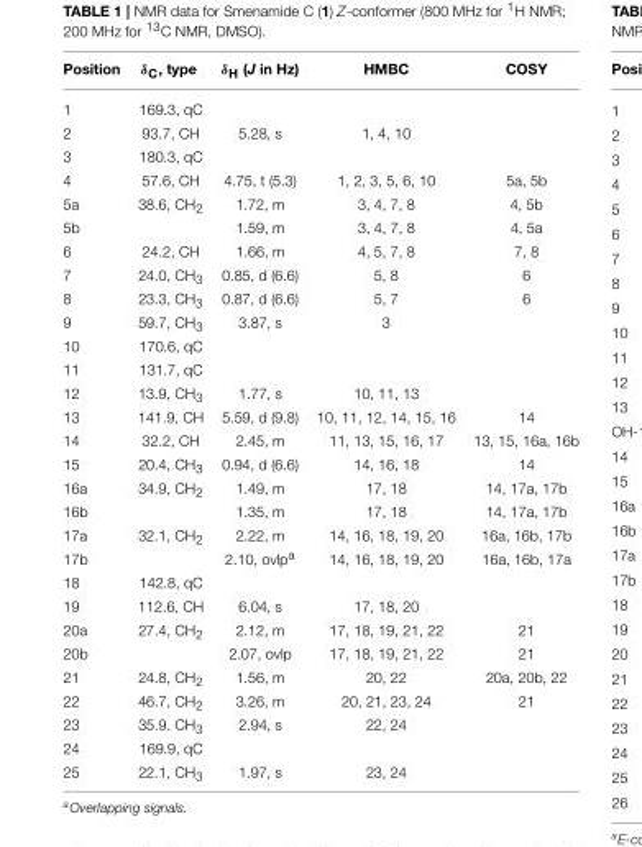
<table><thead><tr><td>Position</td><td>δ<sub>C</sub>, type</td><td>δ<sub>H</sub> (J in Hz)</td><td>HMBC</td><td>COSY</td></tr></thead><tbody><tr><td>1</td><td>169.3, qC</td><td></td><td></td><td></td></tr><tr><td>2</td><td>93.7, CH</td><td>5.28, s</td><td>1, 4, 10</td><td></td></tr><tr><td>3</td><td>180.3, qC</td><td></td><td></td><td></td></tr><tr><td>4</td><td>57.6, CH</td><td>4.75, t (5.3)</td><td>1, 2, 3, 5, 6, 10</td><td>5a, 5b</td></tr><tr><td>5a</td><td>38.6, CH<sub>2</sub></td><td>1.72, m</td><td>3, 4, 7, 8</td><td>4, 5b</td></tr><tr><td>5b</td><td></td><td>1.59, m</td><td>3, 4, 7, 8</td><td>4, 5a</td></tr><tr><td>6</td><td>24.2, CH</td><td>1.66, m</td><td>4, 5, 7, 8</td><td>7, 8</td></tr><tr><td>7</td><td>24.0, CH<sub>3</sub></td><td>0.85, d (6.6)</td><td>5, 8</td><td>6</td></tr><tr><td>8</td><td>23.3, CH<sub>3</sub></td><td>0.87, d (6.6)</td><td>5, 7</td><td>6</td></tr><tr><td>9</td><td>59.7, CH<sub>3</sub></td><td>3.87, s</td><td>3</td><td></td></tr><tr><td>10</td><td>170.6, qC</td><td></td><td></td><td></td></tr><tr><td>11</td><td>131.7, qC</td><td></td><td></td><td></td></tr><tr><td>12</td><td>13.9, CH<sub>3</sub></td><td>1.77, s</td><td>10, 11, 13</td><td></td></tr><tr><td>13</td><td>141.9, CH</td><td>5.59, d (9.8)</td><td>10, 11, 12, 14, 15, 16</td><td>14</td></tr><tr><td>14</td><td>32.2, CH</td><td>2.45, m</td><td>11, 13, 15, 16, 17</td><td>13, 15, 16a, 16b</td></tr><tr><td>15</td><td>20.4, CH<sub>3</sub></td><td>0.94, d (6.6)</td><td>14, 16, 18</td><td>14</td></tr><tr><td>16a</td><td>34.9, CH<sub>2</sub></td><td>1.49, m</td><td>17, 18</td><td>14, 17a, 17b</td></tr><tr><td>16b</td><td></td><td>1.35, m</td><td>17, 18</td><td>14, 17a, 17b</td></tr><tr><td>17a</td><td>32.1, CH<sub>2</sub></td><td>2.22, m</td><td>14, 16, 18, 19, 20</td><td>16a, 16b, 17b</td></tr><tr><td>17b</td><td></td><td>2.10, ovlp<sup>a</sup></td><td>14, 16, 18, 19, 20</td><td>16a, 16b, 17a</td></tr><tr><td>18</td><td>142.8, qC</td><td></td><td></td><td></td></tr><tr><td>19</td><td>112.6, CH</td><td>6.04, s</td><td>17, 18, 20</td><td></td></tr><tr><td>20a</td><td>27.4, CH<sub>2</sub></td><td>2.12, m</td><td>17, 18, 19, 21, 22</td><td>21</td></tr><tr><td>20b</td><td></td><td>2.07, ovlp</td><td>17, 18, 19, 21, 22</td><td>21</td></tr><tr><td>21</td><td>24.8, CH<sub>2</sub></td><td>1.56, m</td><td>20, 22</td><td>20a, 20b, 22</td></tr><tr><td>22</td><td>46.7, CH<sub>2</sub></td><td>3.26, m</td><td>20, 21, 23, 24</td><td>21</td></tr><tr><td>23</td><td>35.9. CH<sub>3</sub></td><td>2.94, s</td><td>22, 24</td><td></td></tr><tr><td>24</td><td>169.9, qC</td><td></td><td></td><td></td></tr><tr><td>25</td><td>22.1, CH<sub>3</sub></td><td>1.97, s</td><td>23, 24</td><td></td></tr></tbody></table>